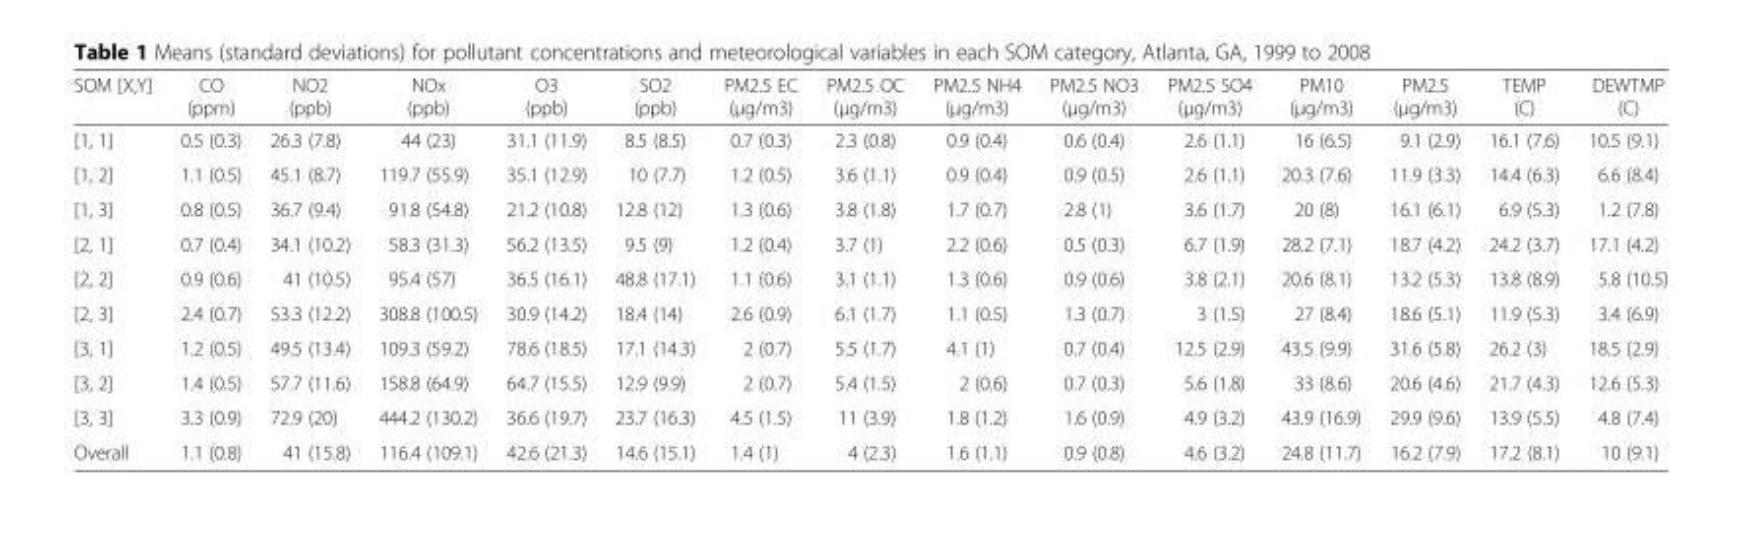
<table><thead><tr><td>SOM [X,Y]</td><td>CO (ppm)</td><td>NO2 (ppb)</td><td>NOx (ppb)</td><td>O3 (ppb)</td><td>SO2 (ppb)</td><td>PM2.5 EC (μg/m3)</td><td>PM2.5 OC (μg/m3)</td><td>PM2.5 NH4 (μg/m3)</td><td>PM2.5 NO3 (μg/m3)</td><td>PM2.5 SO4 (μg/m3)</td><td>PM10 (μg/m3)</td><td>PM2.5 (μg/m3)</td><td>TEMP (C)</td><td>DEWTMP (C)</td></tr></thead><tbody><tr><td>[1, 1]</td><td>0.5 (0.3)</td><td>26.3 (7.8)</td><td>44 (23)</td><td>31.1 (11.9)</td><td>8.5 (8.5)</td><td>0.7 (0.3)</td><td>2.3 (0.8)</td><td>0.9 (0.4)</td><td>0.6 (0.4)</td><td>2.6 (1.1)</td><td>16 (6.5)</td><td>9.1 (2.9)</td><td>16.1 (7.6)</td><td>10.5 (9.1)</td></tr><tr><td>[1, 2]</td><td>1.1 (0.5)</td><td>45.1 (8.7)</td><td>119.7 (55.9)</td><td>35.1 (12.9)</td><td>10 (7.7)</td><td>1.2 (0.5)</td><td>3.6 (1.1)</td><td>0.9 (0.4)</td><td>0.9 (0.5)</td><td>2.6 (1.1)</td><td>20.3 (7.6)</td><td>11.9 (3.3)</td><td>14.4 (6.3)</td><td>6.6 (8.4)</td></tr><tr><td>[1, 3]</td><td>0.8 (0.5)</td><td>36.7 (9.4)</td><td>91.8 (54.8)</td><td>21.2 (10.8)</td><td>12.8 (12)</td><td>1.3 (0.6)</td><td>3.8 (1.8)</td><td>1.7 (0.7)</td><td>2.8 (1)</td><td>3.6 (1.7)</td><td>20 (8)</td><td>16.1 (6.1)</td><td>6.9 (5.3)</td><td>1.2 (7.8)</td></tr><tr><td>[2, 1]</td><td>0.7 (0.4)</td><td>34.1 (10.2)</td><td>58.3 (31.3)</td><td>56.2 (13.5)</td><td>9.5 (9)</td><td>1.2 (0.4)</td><td>3.7 (1)</td><td>2.2 (0.6)</td><td>0.5 (0.3)</td><td>6.7 (1.9)</td><td>28.2 (7.1)</td><td>18.7 (4.2)</td><td>24.2 (3.7)</td><td>17.1 (4.2)</td></tr><tr><td>[2, 2]</td><td>0.9 (0.6)</td><td>41 (10.5)</td><td>95.4 (57)</td><td>36.5 (16.1)</td><td>48.8 (17.1)</td><td>1.1 (0.6)</td><td>3.1 (1.1)</td><td>1.3 (0.6)</td><td>0.9 (0.6)</td><td>3.8 (2.1)</td><td>20.6 (8.1)</td><td>13.2 (5.3)</td><td>13.8 (8.9)</td><td>5.8 (10.5)</td></tr><tr><td>[2, 3]</td><td>2.4 (0.7)</td><td>53.3 (12.2)</td><td>308.8 (100.5)</td><td>30.9 (14.2)</td><td>18.4 (14)</td><td>2.6 (0.9)</td><td>6.1 (1.7)</td><td>1.1 (0.5)</td><td>1.3 (0.7)</td><td>3 (1.5)</td><td>27 (8.4)</td><td>18.6 (5.1)</td><td>11.9 (5.3)</td><td>3.4 (6.9)</td></tr><tr><td>[3, 1]</td><td>1.2 (0.5)</td><td>49.5 (13.4)</td><td>109.3 (59.2)</td><td>78.6 (18.5)</td><td>17.1 (14.3)</td><td>2 (0.7)</td><td>5.5 (1.7)</td><td>4.1 (1)</td><td>0.7 (0.4)</td><td>12.5 (2.9)</td><td>43.5 (9.9)</td><td>31.6 (5.8)</td><td>26.2 (3)</td><td>18.5 (2.9)</td></tr><tr><td>[3, 2]</td><td>1.4 (0.5)</td><td>57.7 (11.6)</td><td>158.8 (64.9)</td><td>64.7 (15.5)</td><td>12.9 (9.9)</td><td>2 (0.7)</td><td>5.4 (1.5)</td><td>2 (0.6)</td><td>0.7 (0.3)</td><td>5.6 (1.8)</td><td>33 (8.6)</td><td>20.6 (4.6)</td><td>21.7 (4.3)</td><td>12.6 (5.3)</td></tr><tr><td>[3, 3]</td><td>3.3 (0.9)</td><td>72.9 (20)</td><td>444.2 (130.2)</td><td>36.6 (19.7)</td><td>23.7 (16.3)</td><td>4.5 (1.5)</td><td>11 (3.9)</td><td>1.8 (1.2)</td><td>1.6 (0.9)</td><td>4.9 (3.2)</td><td>43.9 (16.9)</td><td>29.9 (9.6)</td><td>13.9 (5.5)</td><td>4.8 (7.4)</td></tr><tr><td>Overall</td><td>1.1 (0.8)</td><td>41 (15.8)</td><td>116.4 (109.1)</td><td>42.6 (21.3)</td><td>14.6 (15.1)</td><td>1.4 (1)</td><td>4 (2.3)</td><td>1.6 (1.1)</td><td>0.9 (0.8)</td><td>4.6 (3.2)</td><td>24.8 (11.7)</td><td>16.2 (7.9)</td><td>17.2 (8.1)</td><td>10 (9.1)</td></tr></tbody></table>